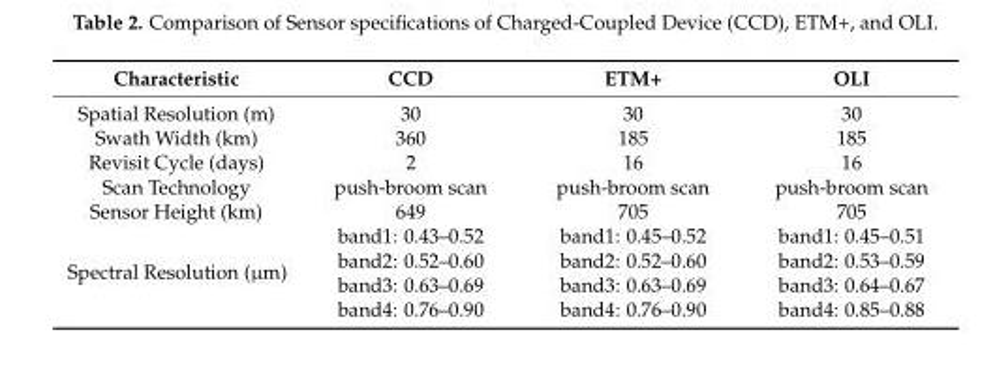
<table><thead><tr><td>Characteristic</td><td>CCD</td><td>ETM+</td><td>OLI</td></tr></thead><tbody><tr><td>Spatial Resolution (m)</td><td>30</td><td>30</td><td>30</td></tr><tr><td>Swath Width (km)</td><td>360</td><td>185</td><td>185</td></tr><tr><td>Revisit Cycle (days)</td><td>2</td><td>16</td><td>16</td></tr><tr><td>Scan Technology</td><td>push-broom scan</td><td>push-broom scan</td><td>push-broom scan</td></tr><tr><td>Sensor Height (km)</td><td>649</td><td>705</td><td>705</td></tr><tr><td rowspan="4">Spectral Resolution (µm)</td><td>band1: 0.43–0.52</td><td>band1: 0.45–0.52</td><td>band1: 0.45–0.51</td></tr><tr><td>band2: 0.52–0.60</td><td>band2: 0.52–0.60</td><td>band2: 0.53–0.59</td></tr><tr><td>band3: 0.63–0.69</td><td>band3: 0.63–0.69</td><td>band3: 0.64–0.67</td></tr><tr><td>band4: 0.76–0.90</td><td>band4: 0.76–0.90</td><td>band4: 0.85–0.88</td></tr></tbody></table>